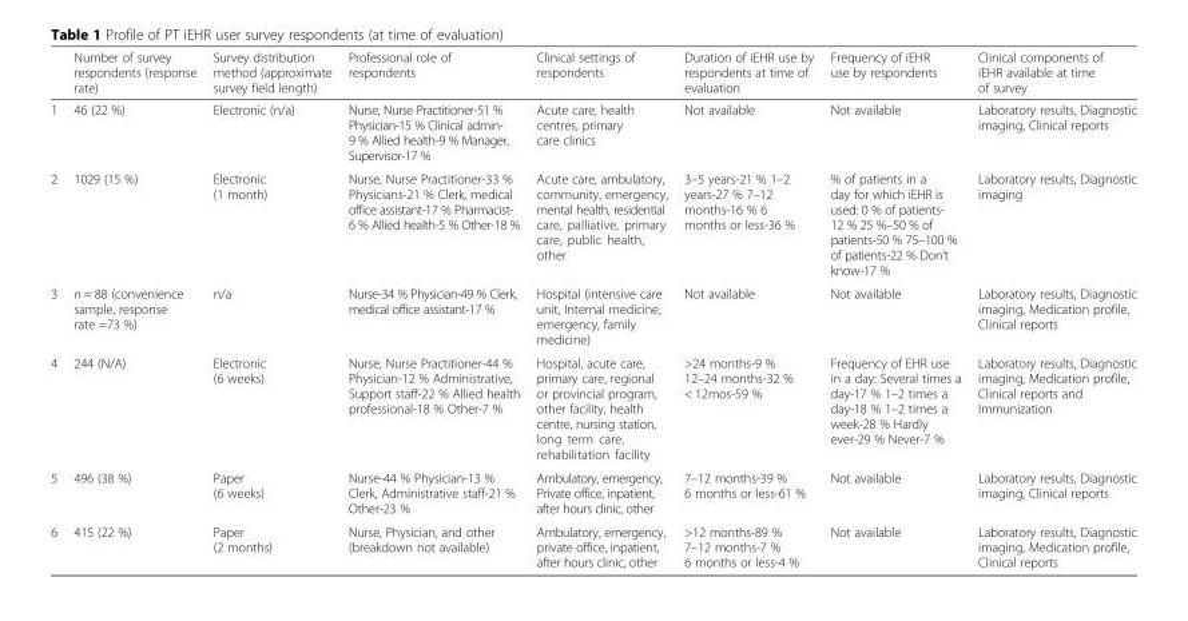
<table><thead><tr><td></td><td>Number of survey respondents (response rate)</td><td>Survey distribution method (approximate survey field length)</td><td>Professional role of respondents</td><td>Clinical settings of respondents</td><td>Duration of iEHR use by respondents at time of evaluation</td><td>Frequency of iEHR use by respondents</td><td>Clinical components of iEHR available at time of survey</td></tr></thead><tbody><tr><td>1</td><td>46 (22 %)</td><td>Electronic (n/a)</td><td>Nurse, Nurse Practitioner-51 % Physician-15 % Clinical admin- 9 % Allied health-9 % Manager, Supervisor-17 %</td><td>Acute care, health centres, primary care clinics</td><td>Not available</td><td>Not available</td><td>Laboratory results, Diagnostic imaging, Clinical reports</td></tr><tr><td>2</td><td>1029 (15 %)</td><td>Electronic (1 month)</td><td>Nurse, Nurse Practitioner-33 % Physicians-21 % Clerk, medical office assistant-17 % Pharmacist- 6 % Allied health-5 % Other-18 %</td><td>Acute care, ambulatory, community, emergency, mental health, residential care, palliative, primary care, public health, other</td><td>3–5 years-21 % 1–2 years-27 % 7–12 months-16 % 6 months or less-36 %</td><td>% of patients in a day for which iEHR is used: 0 % of patients- 12 % 25 %–50 % of patients-50 % 75–100 % of patients-22 % Don’t know-17 %</td><td>Laboratory results, Diagnostic imaging</td></tr><tr><td>3</td><td>n = 88 (convenience sample, response rate =73 %)</td><td>n/a</td><td>Nurse-34 % Physician-49 % Clerk, medical office assistant-17 %</td><td>Hospital (intensive care unit, Internal medicine, emergency, family medicine)</td><td>Not available</td><td>Not available</td><td>Laboratory results, Diagnostic imaging, Medication profile, Clinical reports</td></tr><tr><td>4</td><td>244 (N/A)</td><td>Electronic (6 weeks)</td><td>Nurse, Nurse Practitioner-44 % Physician-12 % Administrative, Support staff-22 % Allied health professional-18 % Other-7 %</td><td>Hospital, acute care, primary care, regional or provincial program, other facility, health centre, nursing station, long term care, rehabilitation facility</td><td>&gt;24 months-9 % 12–24 months-32 % &lt; 12mos-59 %</td><td>Frequency of EHR use in a day: Several times a day-17 % 1–2 times a day-18 % 1–2 times a week-28 % Hardly ever-29 % Never-7 %</td><td>Laboratory results, Diagnostic imaging, Medication profile, Clinical reports and Immunization</td></tr><tr><td>5</td><td>496 (38 %)</td><td>Paper (6 weeks)</td><td>Nurse-44 % Physician-13 % Clerk, Administrative staff-21 % Other-23 %</td><td>Ambulatory, emergency, Private office, inpatient, after hours clinic, other</td><td>7–12 months-39 % 6 months or less-61 %</td><td>Not available</td><td>Laboratory results, Diagnostic imaging, Clinical reports</td></tr><tr><td>6</td><td>415 (22 %)</td><td>Paper (2 months)</td><td>Nurse, Physician, and other (breakdown not available)</td><td>Ambulatory, emergency, private office, inpatient, after hours clinic, other</td><td>&gt;12 months-89 % 7–12 months-7 % 6 months or less-4 %</td><td>Not available</td><td>Laboratory results, Diagnostic imaging, Medication profile, Clinical reports</td></tr></tbody></table>